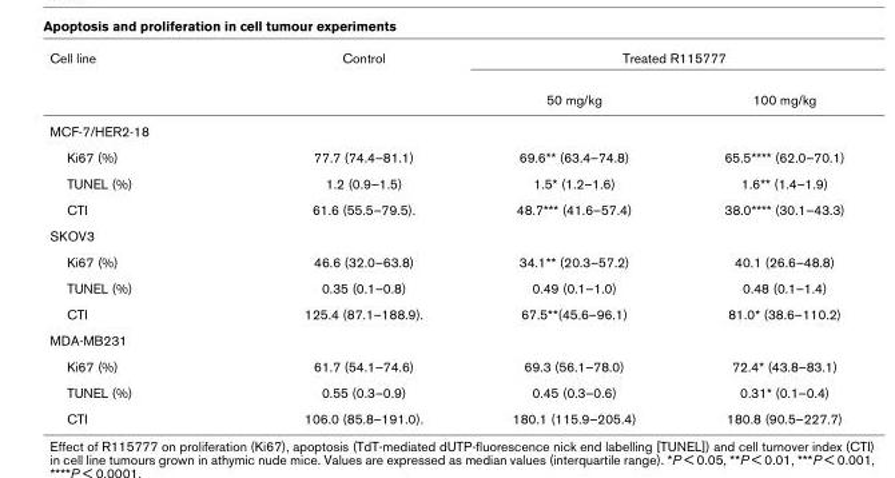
<table><thead><tr><td rowspan="2">Cell line</td><td rowspan="2">Control</td><td colspan="2">Treated R115777</td></tr><tr><td>50 mg/kg</td><td>100 mg/kg</td></tr></thead><tbody><tr><td colspan="4">MCF-7/HER2-18</td></tr><tr><td>Ki67 (%)</td><td>77.7 (74.4–81.1)</td><td>69.6** (63.4–74.8)</td><td>65.5**** (62.0–70.1)</td></tr><tr><td>TUNEL (%)</td><td>1.2 (0.9–1.5)</td><td>1.5* (1.2–1.6)</td><td>1.6** (1.4–1.9)</td></tr><tr><td>CTI</td><td>61.6 (55.5–79.5).</td><td>48.7*** (41.6–57.4)</td><td>38.0**** (30.1–43.3)</td></tr><tr><td colspan="4">SKOV3</td></tr><tr><td>Ki67 (%)</td><td>46.6 (32.0–63.8)</td><td>34.1** (20.3–57.2)</td><td>40.1 (26.6–48.8)</td></tr><tr><td>TUNEL (%)</td><td>0.35 (0.1–0.8)</td><td>0.49 (0.1–1.0)</td><td>0.48 (0.1–1.4)</td></tr><tr><td>CTI</td><td>125.4 (87.1–188.9).</td><td>67.5**(45.6–96.1)</td><td>81.0* (38.6–110.2)</td></tr><tr><td colspan="4">MDA-MB231</td></tr><tr><td>Ki67 (%)</td><td>61.7 (54.1–74.6)</td><td>69.3 (56.1–78.0)</td><td>72.4* (43.8–83.1)</td></tr><tr><td>TUNEL (%)</td><td>0.55 (0.3–0.9)</td><td>0.45 (0.3–0.6)</td><td>0.31* (0.1–0.4)</td></tr><tr><td>CTI</td><td>106.0 (85.8–191.0).</td><td>180.1 (115.9–205.4)</td><td>180.8 (90.5–227.7)</td></tr></tbody></table>